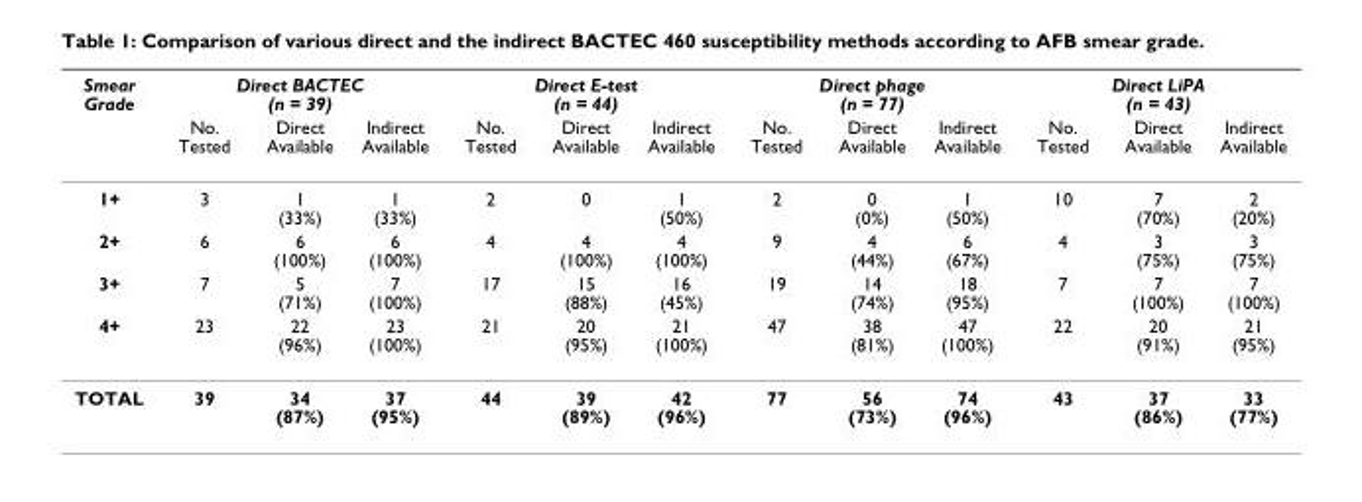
<table><thead><tr><td rowspan="2">Smear Grade</td><td colspan="3">Direct BACTEC (n = 39)</td><td colspan="3">Direct E-test (n = 44)</td><td colspan="3">Direct phage (n = 77)</td><td colspan="3">Direct LiPA (n = 43)</td></tr><tr><td>No. Tested</td><td>Direct Available</td><td>Indirect Available</td><td>No. Tested</td><td>Direct Available</td><td>Indirect Available</td><td>No. Tested</td><td>Direct Available</td><td>Indirect Available</td><td>No. Tested</td><td>Direct Available</td><td>Indirect Available</td></tr></thead><tbody><tr><td>1+</td><td>3</td><td>1 (33%)</td><td>1 (33%)</td><td>2</td><td>0</td><td>1 (50%)</td><td>2</td><td>0 (0%)</td><td>1 (50%)</td><td>10</td><td>7 (70%)</td><td>2 (20%)</td></tr><tr><td>2+</td><td>6</td><td>6 (100%)</td><td>6 (100%)</td><td>4</td><td>4 (100%)</td><td>4 (100%)</td><td>9</td><td>4 (44%)</td><td>6 (67%)</td><td>4</td><td>3 (75%)</td><td>3 (75%)</td></tr><tr><td>3+</td><td>7</td><td>5 (71%)</td><td>7 (100%)</td><td>17</td><td>15 (88%)</td><td>16 (45%)</td><td>19</td><td>14 (74%)</td><td>18 (95%)</td><td>7</td><td>7 (100%)</td><td>7 (100%)</td></tr><tr><td>4+</td><td>23</td><td>22 (96%)</td><td>23 (100%)</td><td>21</td><td>20 (95%)</td><td>21 (100%)</td><td>47</td><td>38 (81%)</td><td>47 (100%)</td><td>22</td><td>20 (91%)</td><td>21 (95%)</td></tr><tr><td>TOTAL</td><td>39</td><td>34 (87%)</td><td>37 (95%)</td><td>44</td><td>39 (89%)</td><td>42 (96%)</td><td>77</td><td>56 (73%)</td><td>74 (96%)</td><td>43</td><td>37 (86%)</td><td>33 (77%)</td></tr></tbody></table>